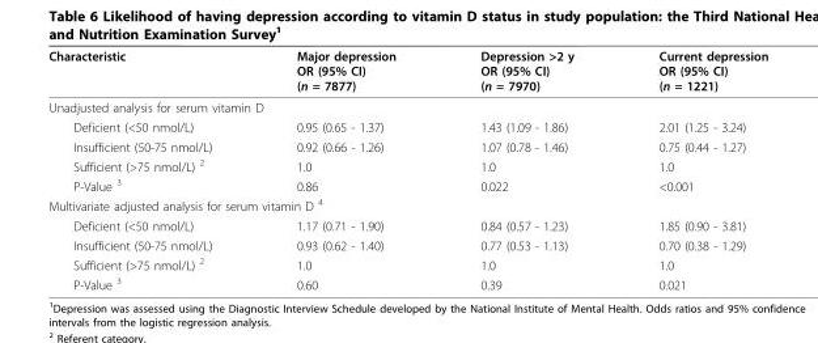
<table><thead><tr><td>Characteristic</td><td>Major depression OR (95% CI) (n = 7877)</td><td>Depression &gt;2 y OR (95% CI) (n = 7970)</td><td>Current depression OR (95% CI) (n = 1221)</td></tr></thead><tbody><tr><td colspan="4">Unadjusted analysis for serum vitamin D</td></tr><tr><td>Deficient (&lt;50 nmol/L)</td><td>0.95 (0.65 - 1.37)</td><td>1.43 (1.09 - 1.86)</td><td>2.01 (1.25 - 3.24)</td></tr><tr><td>Insufficient (50-75 nmol/L)</td><td>0.92 (0.66 - 1.26)</td><td>1.07 (0.78 - 1.46)</td><td>0.75 (0.44 - 1.27)</td></tr><tr><td>Sufficient (&gt;75 nmol/L) <sup>2</sup></td><td>1.0</td><td>1.0</td><td>1.0</td></tr><tr><td>P-Value <sup>3</sup></td><td>0.86</td><td>0.022</td><td>&lt;0.001</td></tr><tr><td colspan="4">Multivariate adjusted analysis for serum vitamin D <sup>4</sup></td></tr><tr><td>Deficient (&lt;50 nmol/L)</td><td>1.17 (0.71 - 1.90)</td><td>0.84 (0.57 - 1.23)</td><td>1.85 (0.90 - 3.81)</td></tr><tr><td>Insufficient (50-75 nmol/L)</td><td>0.93 (0.62 - 1.40)</td><td>0.77 (0.53 - 1.13)</td><td>0.70 (0.38 - 1.29)</td></tr><tr><td>Sufficient (&gt;75 nmol/L) <sup>2</sup></td><td>1.0</td><td>1.0</td><td>1.0</td></tr><tr><td>P-Value <sup>3</sup></td><td>0.60</td><td>0.39</td><td>0.021</td></tr></tbody></table>